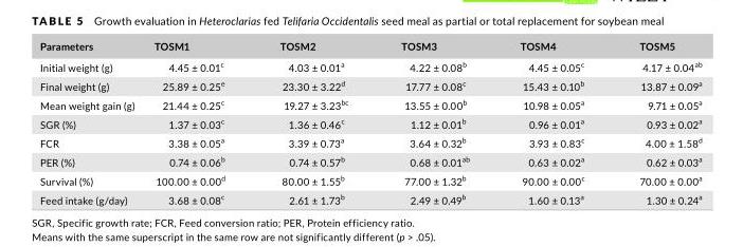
<table><thead><tr><td>Parameters</td><td>TOSM1</td><td>TOSM2</td><td>TOSM3</td><td>TOSM4</td><td>TOSM5</td></tr></thead><tbody><tr><td>Initial weight (g)</td><td>4.45 ± 0.01<sup>c</sup></td><td>4.03 ± 0.01<sup>a</sup></td><td>4.22 ± 0.08<sup>b</sup></td><td>4.45 ± 0.05<sup>c</sup></td><td>4.17 ± 0.04<sup>ab</sup></td></tr><tr><td>Final weight (g)</td><td>25.89 ± 0.25<sup>e</sup></td><td>23.30 ± 3.22<sup>d</sup></td><td>17.77 ± 0.08<sup>c</sup></td><td>15.43 ± 0.10<sup>b</sup></td><td>13.87 ± 0.09<sup>a</sup></td></tr><tr><td>Mean weight gain (g)</td><td>21.44 ± 0.25<sup>c</sup></td><td>19.27 ± 3.23<sup>bc</sup></td><td>13.55 ± 0.00<sup>b</sup></td><td>10.98 ± 0.05<sup>a</sup></td><td>9.71 ± 0.05<sup>a</sup></td></tr><tr><td>SGR (%)</td><td>1.37 ± 0.03<sup>c</sup></td><td>1.36 ± 0.46<sup>c</sup></td><td>1.12 ± 0.01<sup>b</sup></td><td>0.96 ± 0.01<sup>a</sup></td><td>0.93 ± 0.02<sup>a</sup></td></tr><tr><td>FCR</td><td>3.38 ± 0.05<sup>a</sup></td><td>3.39 ± 0.73<sup>a</sup></td><td>3.64 ± 0.32<sup>b</sup></td><td>3.93 ± 0.83<sup>c</sup></td><td>4.00 ± 1.58<sup>d</sup></td></tr><tr><td>PER (%)</td><td>0.74 ± 0.06<sup>b</sup></td><td>0.74 ± 0.57<sup>b</sup></td><td>0.68 ± 0.01<sup>ab</sup></td><td>0.63 ± 0.02<sup>a</sup></td><td>0.62 ± 0.03<sup>a</sup></td></tr><tr><td>Survival (%)</td><td>100.00 ± 0.00<sup>d</sup></td><td>80.00 ± 1.55<sup>b</sup></td><td>77.00 ± 1.32<sup>b</sup></td><td>90.00 ± 0.00<sup>c</sup></td><td>70.00 ± 0.00<sup>a</sup></td></tr><tr><td>Feed intake (g/day)</td><td>3.68 ± 0.08<sup>c</sup></td><td>2.61 ± 1.73<sup>b</sup></td><td>2.49 ± 0.49<sup>b</sup></td><td>1.60 ± 0.13<sup>a</sup></td><td>1.30 ± 0.24<sup>a</sup></td></tr></tbody></table>